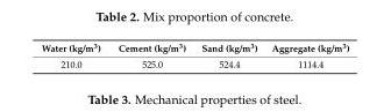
<table><thead><tr><td>Water (kg/m<sup>3</sup>)</td><td>Cement (kg/m<sup>3</sup>)</td><td>Sand (kg/m<sup>3</sup>)</td><td>Aggregate (kg/m<sup>3</sup>)</td></tr></thead><tbody><tr><td>210.0</td><td>525.0</td><td>524.4</td><td>1114.4</td></tr></tbody></table>